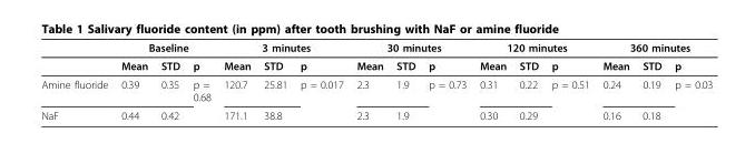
<table><thead><tr><td rowspan="2"></td><td colspan="3">Baseline</td><td colspan="3">3 minutes</td><td colspan="3">30 minutes</td><td colspan="3">120 minutes</td><td colspan="3">360 minutes</td></tr><tr><td>Mean</td><td>STD</td><td>p</td><td>Mean</td><td>STD</td><td>p</td><td>Mean</td><td>STD</td><td>p</td><td>Mean</td><td>STD</td><td>p</td><td>Mean</td><td>STD</td><td>p</td></tr></thead><tbody><tr><td>Amine fluoride</td><td>0.39</td><td>0.35</td><td>p = 0.68</td><td>120.7</td><td>25.81</td><td>p = 0.017</td><td>2.3</td><td>1.9</td><td>p = 0.73</td><td>0.31</td><td>0.22</td><td>p = 0.51</td><td>0.24</td><td>0.19</td><td>p = 0.03</td></tr><tr><td>NaF</td><td>0.44</td><td>0.42</td><td></td><td>171.1</td><td>38.8</td><td></td><td>2.3</td><td>1.9</td><td></td><td>0.30</td><td>0.29</td><td></td><td>0.16</td><td>0.18</td><td></td></tr></tbody></table>